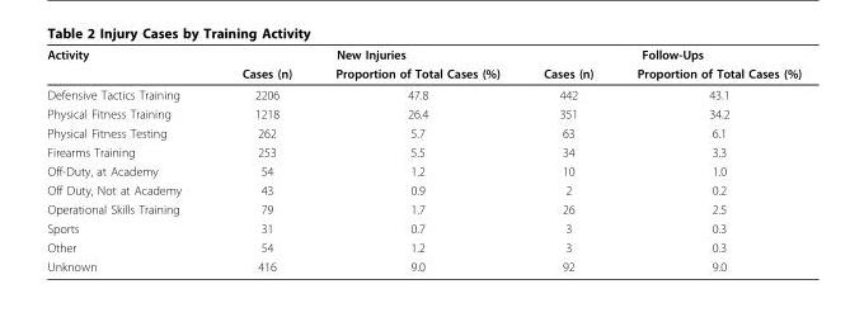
<table><thead><tr><td rowspan="2">Activity</td><td colspan="2">New Injuries</td><td colspan="2">Follow-Ups</td></tr><tr><td>Cases (n)</td><td>Proportion of Total Cases (%)</td><td>Cases (n)</td><td>Proportion of Total Cases (%)</td></tr></thead><tbody><tr><td>Defensive Tactics Training</td><td>2206</td><td>47.8</td><td>442</td><td>43.1</td></tr><tr><td>Physical Fitness Training</td><td>1218</td><td>26.4</td><td>351</td><td>34.2</td></tr><tr><td>Physical Fitness Testing</td><td>262</td><td>5.7</td><td>63</td><td>6.1</td></tr><tr><td>Firearms Training</td><td>253</td><td>5.5</td><td>34</td><td>3.3</td></tr><tr><td>Off-Duty, at Academy</td><td>54</td><td>1.2</td><td>10</td><td>1.0</td></tr><tr><td>Off Duty, Not at Academy</td><td>43</td><td>0.9</td><td>2</td><td>0.2</td></tr><tr><td>Operational Skills Training</td><td>79</td><td>1.7</td><td>26</td><td>2.5</td></tr><tr><td>Sports</td><td>31</td><td>0.7</td><td>3</td><td>0.3</td></tr><tr><td>Other</td><td>54</td><td>1.2</td><td>3</td><td>0.3</td></tr><tr><td>Unknown</td><td>416</td><td>9.0</td><td>92</td><td>9.0</td></tr></tbody></table>